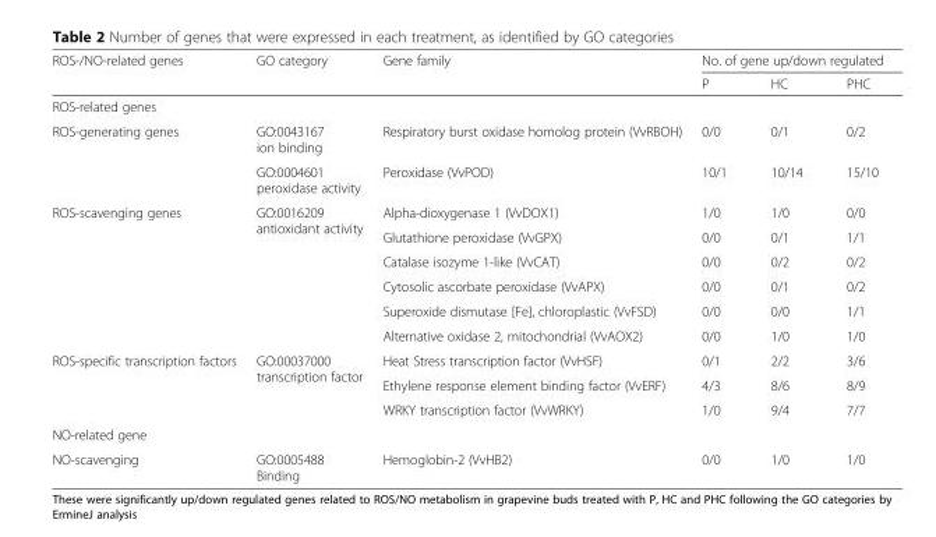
<table><thead><tr><td rowspan="2">ROS-/NO-related genes</td><td rowspan="2">GO category</td><td rowspan="2">Gene family</td><td colspan="3">No. of gene up/down regulated</td></tr><tr><td>P</td><td>HC</td><td>PHC</td></tr></thead><tbody><tr><td colspan="6">ROS-related genes</td></tr><tr><td rowspan="2">ROS-generating genes</td><td>GO:0043167 ion binding</td><td>Respiratory burst oxidase homolog protein (VvRBOH)</td><td>0/0</td><td>0/1</td><td>0/2</td></tr><tr><td>GO:0004601 peroxidase activity</td><td>Peroxidase (VvPOD)</td><td>10/1</td><td>10/14</td><td>15/10</td></tr><tr><td rowspan="6">ROS-scavenging genes</td><td rowspan="6">GO:0016209 antioxidant activity</td><td>Alpha-dioxygenase 1 (VvDOX1)</td><td>1/0</td><td>1/0</td><td>0/0</td></tr><tr><td>Glutathione peroxidase (VvGPX)</td><td>0/0</td><td>0/1</td><td>1/1</td></tr><tr><td>Catalase isozyme 1-like (VvCAT)</td><td>0/0</td><td>0/2</td><td>0/2</td></tr><tr><td>Cytosolic ascorbate peroxidase (VvAPX)</td><td>0/0</td><td>0/1</td><td>0/2</td></tr><tr><td>Superoxide dismutase [Fe], chloroplastic (VvFSD)</td><td>0/0</td><td>0/0</td><td>1/1</td></tr><tr><td>Alternative oxidase 2, mitochondrial (VvAOX2)</td><td>0/0</td><td>1/0</td><td>1/0</td></tr><tr><td rowspan="3">ROS-specific transcription factors</td><td rowspan="3">GO:00037000 transcription factor</td><td>Heat Stress transcription factor (VvHSF)</td><td>0/1</td><td>2/2</td><td>3/6</td></tr><tr><td>Ethylene response element binding factor (VvERF)</td><td>4/3</td><td>8/6</td><td>8/9</td></tr><tr><td>WRKY transcription factor (VvWRKY)</td><td>1/0</td><td>9/4</td><td>7/7</td></tr><tr><td colspan="6">NO-related gene</td></tr><tr><td>NO-scavenging</td><td>GO:0005488 Binding</td><td>Hemoglobin-2 (VvHB2)</td><td>0/0</td><td>1/0</td><td>1/0</td></tr></tbody></table>